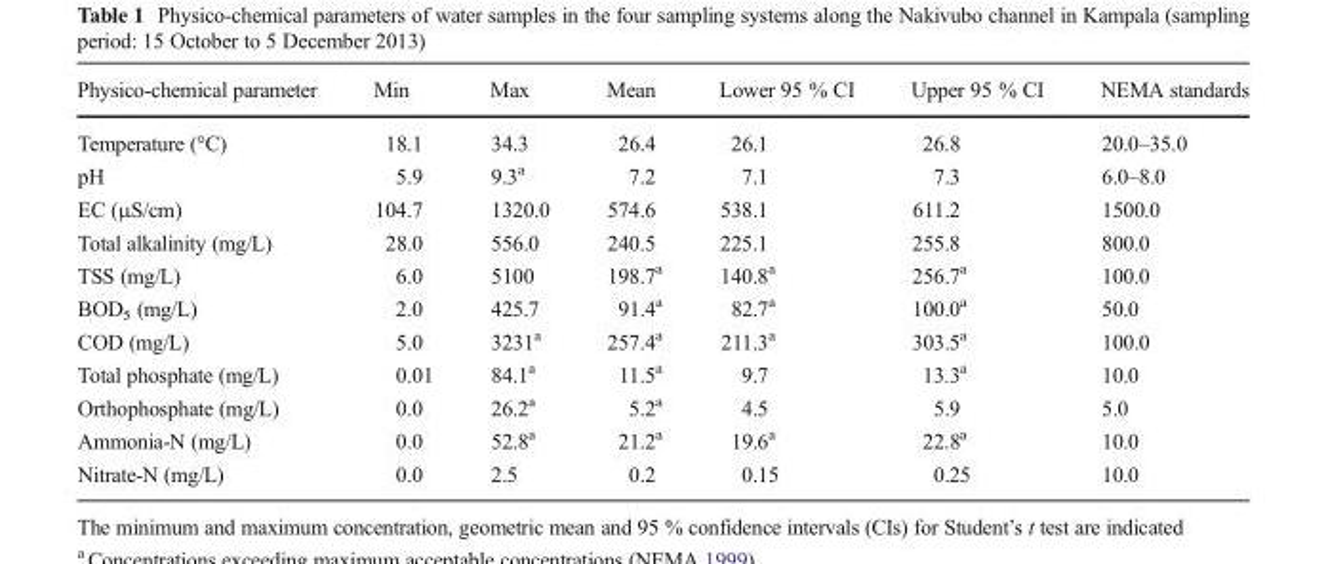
<table><thead><tr><td>Physico-chemical parameter</td><td>Min</td><td>Max</td><td>Mean</td><td>Lower 95 % CI</td><td>Upper 95 % CI</td><td>NEMA standards</td></tr></thead><tbody><tr><td>Temperature (°C)</td><td>18.1</td><td>34.3</td><td>26.4</td><td>26.1</td><td>26.8</td><td>20.0–35.0</td></tr><tr><td>pH</td><td>5.9</td><td>9.3<sup>a</sup></td><td>7.2</td><td>7.1</td><td>7.3</td><td>6.0–8.0</td></tr><tr><td>EC (μS/cm)</td><td>104.7</td><td>1320.0</td><td>574.6</td><td>538.1</td><td>611.2</td><td>1500.0</td></tr><tr><td>Total alkalinity (mg/L)</td><td>28.0</td><td>556.0</td><td>240.5</td><td>225.1</td><td>255.8</td><td>800.0</td></tr><tr><td>TSS (mg/L)</td><td>6.0</td><td>5100</td><td>198.7<sup>a</sup></td><td>140.8<sup>a</sup></td><td>256.7<sup>a</sup></td><td>100.0</td></tr><tr><td>BOD<sub>5</sub> (mg/L)</td><td>2.0</td><td>425.7</td><td>91.4<sup>a</sup></td><td>82.7<sup>a</sup></td><td>100.0<sup>a</sup></td><td>50.0</td></tr><tr><td>COD (mg/L)</td><td>5.0</td><td>3231<sup>a</sup></td><td>257.4<sup>a</sup></td><td>211.3<sup>a</sup></td><td>303.5<sup>a</sup></td><td>100.0</td></tr><tr><td>Total phosphate (mg/L)</td><td>0.01</td><td>84.1<sup>a</sup></td><td>11.5<sup>a</sup></td><td>9.7</td><td>13.3<sup>a</sup></td><td>10.0</td></tr><tr><td>Orthophosphate (mg/L)</td><td>0.0</td><td>26.2<sup>a</sup></td><td>5.2<sup>a</sup></td><td>4.5</td><td>5.9</td><td>5.0</td></tr><tr><td>Ammonia-N (mg/L)</td><td>0.0</td><td>52.8<sup>a</sup></td><td>21.2<sup>a</sup></td><td>19.6<sup>a</sup></td><td>22.8<sup>a</sup></td><td>10.0</td></tr><tr><td>Nitrate-N (mg/L)</td><td>0.0</td><td>2.5</td><td>0.2</td><td>0.15</td><td>0.25</td><td>10.0</td></tr></tbody></table>